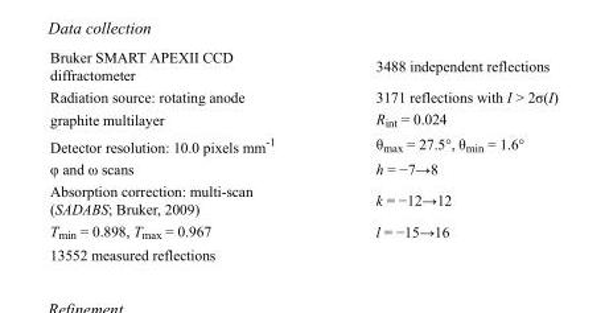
<table><tbody><tr><td>Bruker SMART APEXII CCD diffractometer</td><td>3488 independent reflections</td></tr><tr><td>Radiation source: rotating anode</td><td>3171 reflections with I &gt; 2σ(I)</td></tr><tr><td>graphite multilayer</td><td>R<sub>int</sub> = 0.024</td></tr><tr><td>Detector resolution: 10.0 pixels mm<sup>-1</sup></td><td>θ<sub>max</sub> = 27.5°, θ<sub>min</sub> = 1.6°</td></tr><tr><td>φ and ω scans</td><td>h = −7→8</td></tr><tr><td>Absorption correction: multi-scan (SADABS; Bruker, 2009)</td><td>k = −12→12</td></tr><tr><td>T<sub>min</sub> = 0.898, T<sub>max</sub> = 0.967</td><td>l = −15→16</td></tr><tr><td>13552 measured reflections</td><td></td></tr></tbody></table>